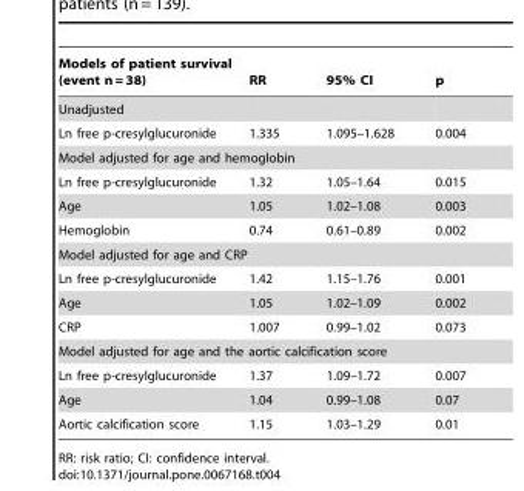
<table><thead><tr><td>Models of patient survival (event n = 38)</td><td>RR</td><td>95% CI</td><td>p</td></tr></thead><tbody><tr><td colspan="4">Unadjusted</td></tr><tr><td>Ln free p-cresylglucuronide</td><td>1.335</td><td>1.095–1.628</td><td>0.004</td></tr><tr><td colspan="4">Model adjusted for age and hemoglobin</td></tr><tr><td>Ln free p-cresylglucuronide</td><td>1.32</td><td>1.05–1.64</td><td>0.015</td></tr><tr><td>Age</td><td>1.05</td><td>1.02–1.08</td><td>0.003</td></tr><tr><td>Hemoglobin</td><td>0.74</td><td>0.61–0.89</td><td>0.002</td></tr><tr><td colspan="4">Model adjusted for age and CRP</td></tr><tr><td>Ln free p-cresylglucuronide</td><td>1.42</td><td>1.15–1.76</td><td>0.001</td></tr><tr><td>Age</td><td>1.05</td><td>1.02–1.09</td><td>0.002</td></tr><tr><td>CRP</td><td>1.007</td><td>0.99–1.02</td><td>0.073</td></tr><tr><td colspan="4">Model adjusted for age and the aortic calcification score</td></tr><tr><td>Ln free p-cresylglucuronide</td><td>1.37</td><td>1.09–1.72</td><td>0.007</td></tr><tr><td>Age</td><td>1.04</td><td>0.99–1.08</td><td>0.07</td></tr><tr><td>Aortic calcification score</td><td>1.15</td><td>1.03–1.29</td><td>0.01</td></tr></tbody></table>